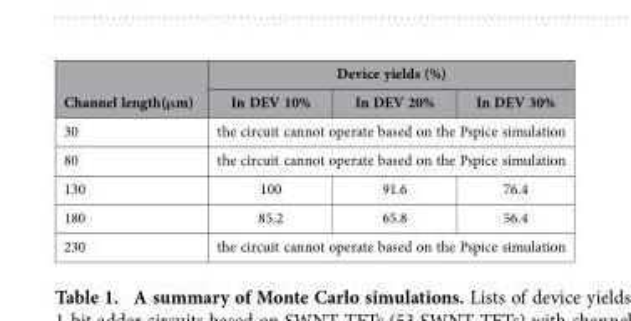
<table><thead><tr><td rowspan="2">Channel length(μm)</td><td colspan="3">Device yields (%)</td></tr><tr><td>In DEV 10%</td><td>In DEV 20%</td><td>In DEV 30%</td></tr></thead><tbody><tr><td>30</td><td colspan="3">the circuit cannot operate based on the Pspice simulation</td></tr><tr><td>80</td><td colspan="3">the circuit cannot operate based on the Pspice simulation</td></tr><tr><td>130</td><td>100</td><td>91.6</td><td>76.4</td></tr><tr><td>180</td><td>85.2</td><td>65.8</td><td>56.4</td></tr><tr><td>230</td><td colspan="3">the circuit cannot operate based on the Pspice simulation</td></tr></tbody></table>